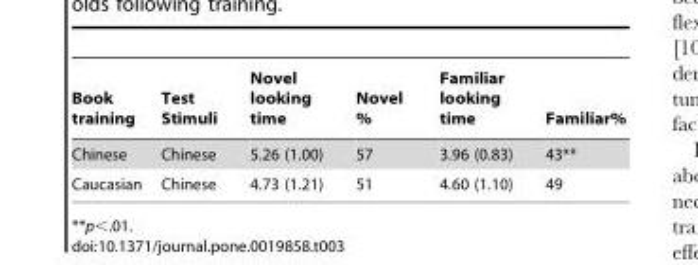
<table><thead><tr><td>Book training</td><td>Test Stimuli</td><td>Novel looking time</td><td>Novel %</td><td>Familiar looking time</td><td>Familiar%</td></tr></thead><tbody><tr><td>Chinese</td><td>Chinese</td><td>5.26 (1.00)</td><td>57</td><td>3.96 (0.83)</td><td>43**</td></tr><tr><td>Caucasian</td><td>Chinese</td><td>4.73 (1.21)</td><td>51</td><td>4.60 (1.10)</td><td>49</td></tr></tbody></table>